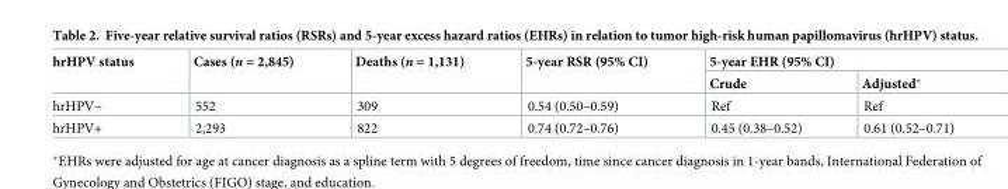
<table><thead><tr><td rowspan="2">hrHPV status</td><td rowspan="2">Cases (n = 2,845)</td><td rowspan="2">Deaths (n = 1,131)</td><td rowspan="2">5-year RSR (95% CI)</td><td colspan="2">5-year EHR (95% CI)</td></tr><tr><td>Crude</td><td>Adjusted*</td></tr></thead><tbody><tr><td>hrHPV−</td><td>552</td><td>309</td><td>0.54 (0.50–0.59)</td><td>Ref</td><td>Ref</td></tr><tr><td>hrHPV+</td><td>2,293</td><td>822</td><td>0.74 (0.72–0.76)</td><td>0.45 (0.38–0.52)</td><td>0.61 (0.52–0.71)</td></tr></tbody></table>